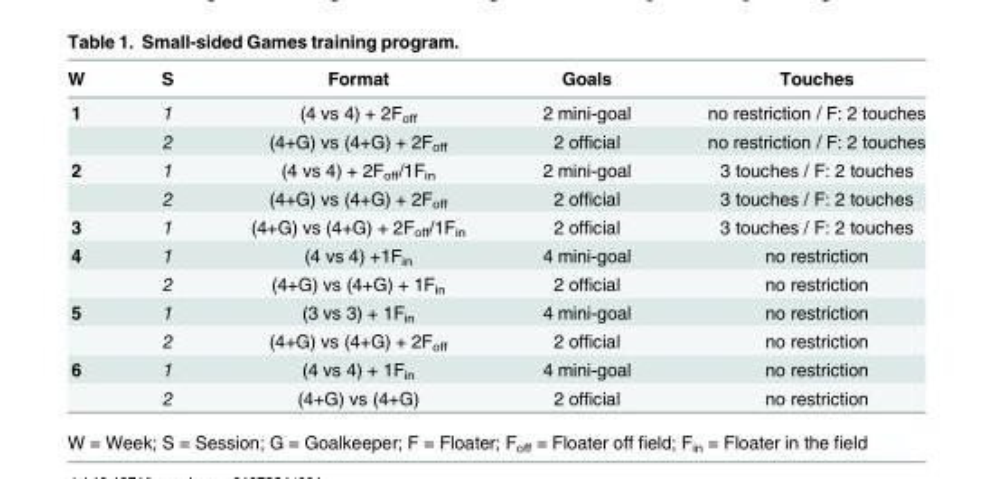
<table><thead><tr><td>W</td><td>S</td><td>Format</td><td>Goals</td><td>Touches</td></tr></thead><tbody><tr><td rowspan="2">1</td><td>1</td><td>(4 vs 4) + 2F<sub>off</sub></td><td>2 mini-goal</td><td>no restriction / F: 2 touches</td></tr><tr><td>2</td><td>(4+G) vs (4+G) + 2F<sub>off</sub></td><td>2 official</td><td>no restriction / F: 2 touches</td></tr><tr><td rowspan="2">2</td><td>1</td><td>(4 vs 4) + 2F<sub>off</sub>/1F<sub>in</sub></td><td>2 mini-goal</td><td>3 touches / F: 2 touches</td></tr><tr><td>2</td><td>(4+G) vs (4+G) + 2F<sub>off</sub></td><td>2 official</td><td>3 touches / F: 2 touches</td></tr><tr><td>3</td><td>1</td><td>(4+G) vs (4+G) + 2F<sub>off</sub>/1F<sub>in</sub></td><td>2 official</td><td>3 touches / F: 2 touches</td></tr><tr><td rowspan="2">4</td><td>1</td><td>(4 vs 4) +1F<sub>in</sub></td><td>4 mini-goal</td><td>no restriction</td></tr><tr><td>2</td><td>(4+G) vs (4+G) + 1F<sub>in</sub></td><td>2 official</td><td>no restriction</td></tr><tr><td rowspan="2">5</td><td>1</td><td>(3 vs 3) + 1F<sub>in</sub></td><td>4 mini-goal</td><td>no restriction</td></tr><tr><td>2</td><td>(4+G) vs (4+G) + 2F<sub>off</sub></td><td>2 official</td><td>no restriction</td></tr><tr><td rowspan="2">6</td><td>1</td><td>(4 vs 4) + 1F<sub>in</sub></td><td>4 mini-goal</td><td>no restriction</td></tr><tr><td>2</td><td>(4+G) vs (4+G)</td><td>2 official</td><td>no restriction</td></tr></tbody></table>